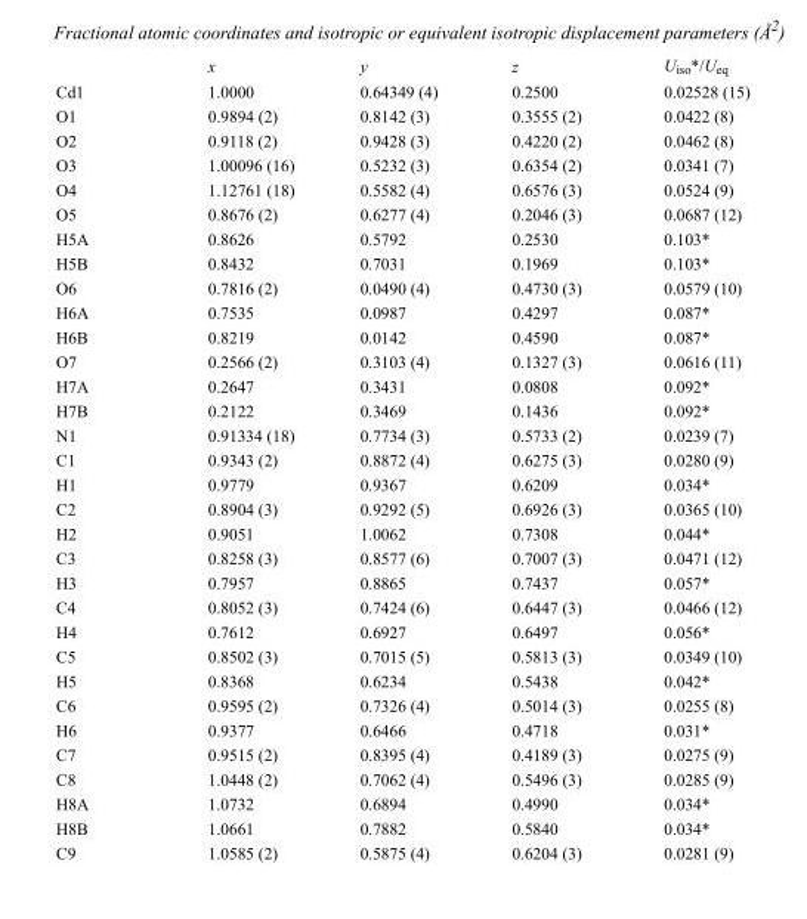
<table><thead><tr><td></td><td>x</td><td>y</td><td>z</td><td>U<sub>iso</sub>*/U<sub>eq</sub></td></tr></thead><tbody><tr><td>Cd1</td><td>1.0000</td><td>0.64349 (4)</td><td>0.2500</td><td>0.02528 (15)</td></tr><tr><td>O1</td><td>0.9894 (2)</td><td>0.8142 (3)</td><td>0.3555 (2)</td><td>0.0422 (8)</td></tr><tr><td>O2</td><td>0.9118 (2)</td><td>0.9428 (3)</td><td>0.4220 (2)</td><td>0.0462 (8)</td></tr><tr><td>O3</td><td>1.00096 (16)</td><td>0.5232 (3)</td><td>0.6354 (2)</td><td>0.0341 (7)</td></tr><tr><td>O4</td><td>1.12761 (18)</td><td>0.5582 (4)</td><td>0.6576 (3)</td><td>0.0524 (9)</td></tr><tr><td>O5</td><td>0.8676 (2)</td><td>0.6277 (4)</td><td>0.2046 (3)</td><td>0.0687 (12)</td></tr><tr><td>H5A</td><td>0.8626</td><td>0.5792</td><td>0.2530</td><td>0.103*</td></tr><tr><td>H5B</td><td>0.8432</td><td>0.7031</td><td>0.1969</td><td>0.103*</td></tr><tr><td>O6</td><td>0.7816 (2)</td><td>0.0490 (4)</td><td>0.4730 (3)</td><td>0.0579 (10)</td></tr><tr><td>H6A</td><td>0.7535</td><td>0.0987</td><td>0.4297</td><td>0.087*</td></tr><tr><td>H6B</td><td>0.8219</td><td>0.0142</td><td>0.4590</td><td>0.087*</td></tr><tr><td>O7</td><td>0.2566 (2)</td><td>0.3103 (4)</td><td>0.1327 (3)</td><td>0.0616 (11)</td></tr><tr><td>H7A</td><td>0.2647</td><td>0.3431</td><td>0.0808</td><td>0.092*</td></tr><tr><td>H7B</td><td>0.2122</td><td>0.3469</td><td>0.1436</td><td>0.092*</td></tr><tr><td>N1</td><td>0.91334 (18)</td><td>0.7734 (3)</td><td>0.5733 (2)</td><td>0.0239 (7)</td></tr><tr><td>C1</td><td>0.9343 (2)</td><td>0.8872 (4)</td><td>0.6275 (3)</td><td>0.0280 (9)</td></tr><tr><td>H1</td><td>0.9779</td><td>0.9367</td><td>0.6209</td><td>0.034*</td></tr><tr><td>C2</td><td>0.8904 (3)</td><td>0.9292 (5)</td><td>0.6926 (3)</td><td>0.0365 (10)</td></tr><tr><td>H2</td><td>0.9051</td><td>1.0062</td><td>0.7308</td><td>0.044*</td></tr><tr><td>C3</td><td>0.8258 (3)</td><td>0.8577 (6)</td><td>0.7007 (3)</td><td>0.0471 (12)</td></tr><tr><td>H3</td><td>0.7957</td><td>0.8865</td><td>0.7437</td><td>0.057*</td></tr><tr><td>C4</td><td>0.8052 (3)</td><td>0.7424 (6)</td><td>0.6447 (3)</td><td>0.0466 (12)</td></tr><tr><td>H4</td><td>0.7612</td><td>0.6927</td><td>0.6497</td><td>0.056*</td></tr><tr><td>C5</td><td>0.8502 (3)</td><td>0.7015 (5)</td><td>0.5813 (3)</td><td>0.0349 (10)</td></tr><tr><td>H5</td><td>0.8368</td><td>0.6234</td><td>0.5438</td><td>0.042*</td></tr><tr><td>C6</td><td>0.9595 (2)</td><td>0.7326 (4)</td><td>0.5014 (3)</td><td>0.0255 (8)</td></tr><tr><td>H6</td><td>0.9377</td><td>0.6466</td><td>0.4718</td><td>0.031*</td></tr><tr><td>C7</td><td>0.9515 (2)</td><td>0.8395 (4)</td><td>0.4189 (3)</td><td>0.0275 (9)</td></tr><tr><td>C8</td><td>1.0448 (2)</td><td>0.7062 (4)</td><td>0.5496 (3)</td><td>0.0285 (9)</td></tr><tr><td>H8A</td><td>1.0732</td><td>0.6894</td><td>0.4990</td><td>0.034*</td></tr><tr><td>H8B</td><td>1.0661</td><td>0.7882</td><td>0.5840</td><td>0.034*</td></tr><tr><td>C9</td><td>1.0585 (2)</td><td>0.5875 (4)</td><td>0.6204 (3)</td><td>0.0281 (9)</td></tr></tbody></table>